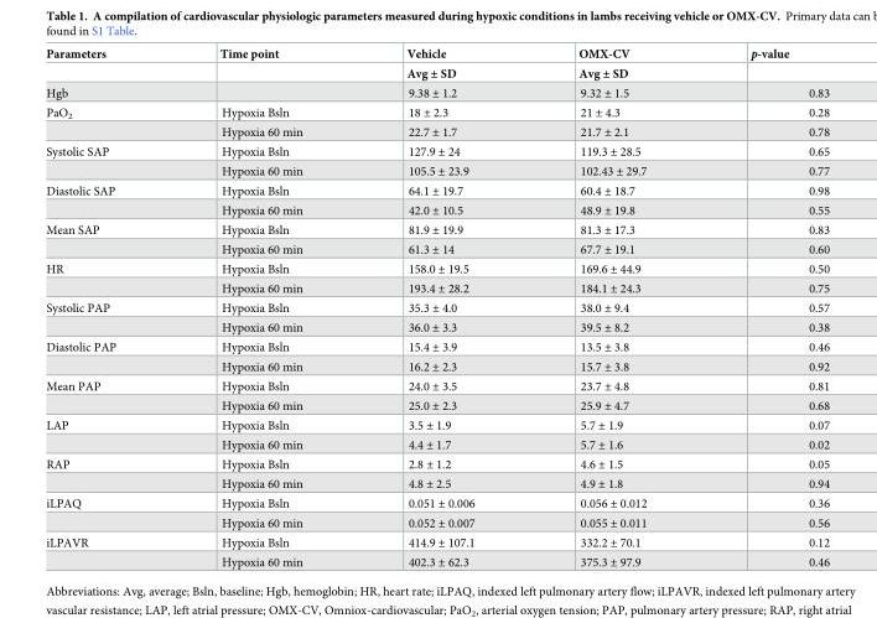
<table><thead><tr><td rowspan="2">Parameters</td><td rowspan="2">Time point</td><td rowspan="2">Vehicle Avg ± SD</td><td rowspan="2">OMX-CV Avg ± SD</td><td rowspan="2">p-value</td></tr><tr></tr></thead><tbody><tr><td>Hgb</td><td></td><td>9.38 ± 1.2</td><td>9.32 ± 1.5</td><td>0.83</td></tr><tr><td rowspan="2">PaO<sub>2</sub></td><td>Hypoxia Bsln</td><td>18 ± 2.3</td><td>21 ± 4.3</td><td>0.28</td></tr><tr><td>Hypoxia 60 min</td><td>22.7 ± 1.7</td><td>21.7 ± 2.1</td><td>0.78</td></tr><tr><td rowspan="2">Systolic SAP</td><td>Hypoxia Bsln</td><td>127.9 ± 24</td><td>119.3 ± 28.5</td><td>0.65</td></tr><tr><td>Hypoxia 60 min</td><td>105.5 ± 23.9</td><td>102.43 ± 29.7</td><td>0.77</td></tr><tr><td rowspan="2">Diastolic SAP</td><td>Hypoxia Bsln</td><td>64.1 ± 19.7</td><td>60.4 ± 18.7</td><td>0.98</td></tr><tr><td>Hypoxia 60 min</td><td>42.0 ± 10.5</td><td>48.9 ± 19.8</td><td>0.55</td></tr><tr><td rowspan="2">Mean SAP</td><td>Hypoxia Bsln</td><td>81.9 ± 19.9</td><td>81.3 ± 17.3</td><td>0.83</td></tr><tr><td>Hypoxia 60 min</td><td>61.3 ± 14</td><td>67.7 ± 19.1</td><td>0.60</td></tr><tr><td rowspan="2">HR</td><td>Hypoxia Bsln</td><td>158.0 ± 19.5</td><td>169.6 ± 44.9</td><td>0.50</td></tr><tr><td>Hypoxia 60 min</td><td>193.4 ± 28.2</td><td>184.1 ± 24.3</td><td>0.75</td></tr><tr><td rowspan="2">Systolic PAP</td><td>Hypoxia Bsln</td><td>35.3 ± 4.0</td><td>38.0 ± 9.4</td><td>0.57</td></tr><tr><td>Hypoxia 60 min</td><td>36.0 ± 3.3</td><td>39.5 ± 8.2</td><td>0.38</td></tr><tr><td rowspan="2">Diastolic PAP</td><td>Hypoxia Bsln</td><td>15.4 ± 3.9</td><td>13.5 ± 3.8</td><td>0.46</td></tr><tr><td>Hypoxia 60 min</td><td>16.2 ± 2.3</td><td>15.7 ± 3.8</td><td>0.92</td></tr><tr><td rowspan="2">Mean PAP</td><td>Hypoxia Bsln</td><td>24.0 ± 3.5</td><td>23.7 ± 4.8</td><td>0.81</td></tr><tr><td>Hypoxia 60 min</td><td>25.0 ± 2.3</td><td>25.9 ± 4.7</td><td>0.68</td></tr><tr><td rowspan="2">LAP</td><td>Hypoxia Bsln</td><td>3.5 ± 1.9</td><td>5.7 ± 1.9</td><td>0.07</td></tr><tr><td>Hypoxia 60 min</td><td>4.4 ± 1.7</td><td>5.7 ± 1.6</td><td>0.02</td></tr><tr><td rowspan="2">RAP</td><td>Hypoxia Bsln</td><td>2.8 ± 1.2</td><td>4.6 ± 1.5</td><td>0.05</td></tr><tr><td>Hypoxia 60 min</td><td>4.8 ± 2.5</td><td>4.9 ± 1.8</td><td>0.94</td></tr><tr><td rowspan="2">iLPAQ</td><td>Hypoxia Bsln</td><td>0.051 ± 0.006</td><td>0.056 ± 0.012</td><td>0.36</td></tr><tr><td>Hypoxia 60 min</td><td>0.052 ± 0.007</td><td>0.055 ± 0.011</td><td>0.56</td></tr><tr><td rowspan="2">iLPAVR</td><td>Hypoxia Bsln</td><td>414.9 ± 107.1</td><td>332.2 ± 70.1</td><td>0.12</td></tr><tr><td>Hypoxia 60 min</td><td>402.3 ± 62.3</td><td>375.3 ± 97.9</td><td>0.46</td></tr></tbody></table>